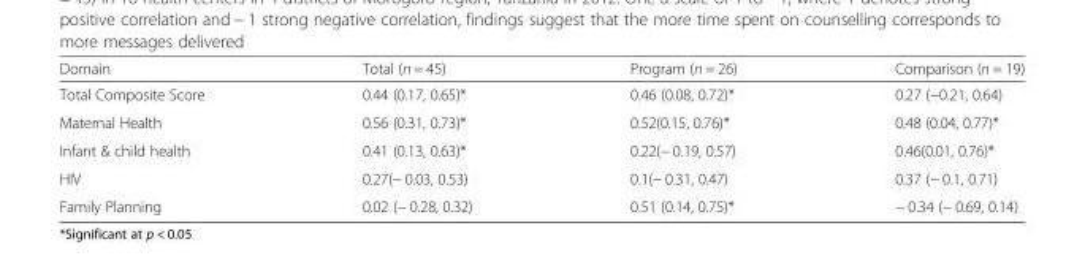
<table><thead><tr><td>Domain</td><td>Total (n = 45)</td><td>Program (n = 26)</td><td>Comparison (n = 19)</td></tr></thead><tbody><tr><td>Total Composite Score</td><td>0.44 (0.17, 0.65)*</td><td>0.46 (0.08, 0.72)*</td><td>0.27 (−0.21, 0.64)</td></tr><tr><td>Maternal Health</td><td>0.56 (0.31, 0.73)*</td><td>0.52(0.15, 0.76)*</td><td>0.48 (0.04, 0.77)*</td></tr><tr><td>Infant &amp; child health</td><td>0.41 (0.13, 0.63)*</td><td>0.22(− 0.19, 0.57)</td><td>0.46(0.01, 0.76)*</td></tr><tr><td>HIV</td><td>0.27(− 0.03, 0.53)</td><td>0.1(− 0.31, 0.47)</td><td>0.37 (− 0.1, 0.71)</td></tr><tr><td>Family Planning</td><td>0.02 (− 0.28, 0.32)</td><td>0.51 (0.14, 0.75)*</td><td>− 0.34 (− 0.69, 0.14)</td></tr></tbody></table>